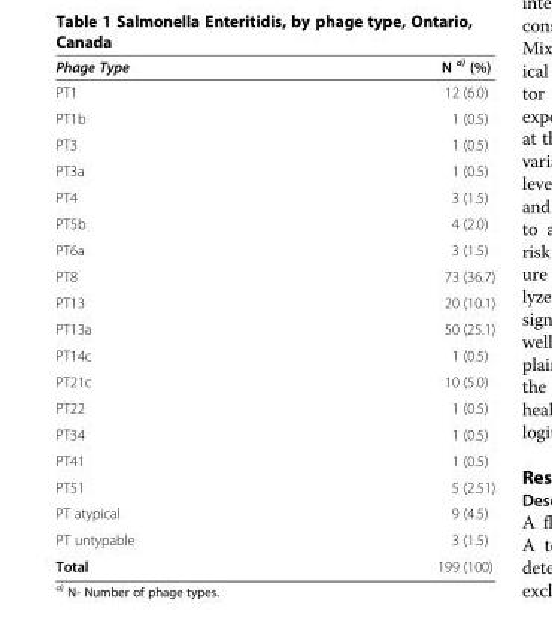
<table><thead><tr><td>Phage Type</td><td>N <sup>a)</sup> (%)</td></tr></thead><tbody><tr><td>PT1</td><td>12 (6.0)</td></tr><tr><td>PT1b</td><td>1 (0.5)</td></tr><tr><td>PT3</td><td>1 (0.5)</td></tr><tr><td>PT3a</td><td>1 (0.5)</td></tr><tr><td>PT4</td><td>3 (1.5)</td></tr><tr><td>PT5b</td><td>4 (2.0)</td></tr><tr><td>PT6a</td><td>3 (1.5)</td></tr><tr><td>PT8</td><td>73 (36.7)</td></tr><tr><td>PT13</td><td>20 (10.1)</td></tr><tr><td>PT13a</td><td>50 (25.1)</td></tr><tr><td>PT14c</td><td>1 (0.5)</td></tr><tr><td>PT21c</td><td>10 (5.0)</td></tr><tr><td>PT22</td><td>1 (0.5)</td></tr><tr><td>PT34</td><td>1 (0.5)</td></tr><tr><td>PT41</td><td>1 (0.5)</td></tr><tr><td>PT51</td><td>5 (2.51)</td></tr><tr><td>PT atypical</td><td>9 (4.5)</td></tr><tr><td>PT untypable</td><td>3 (1.5)</td></tr><tr><td>Total</td><td>199 (100)</td></tr></tbody></table>